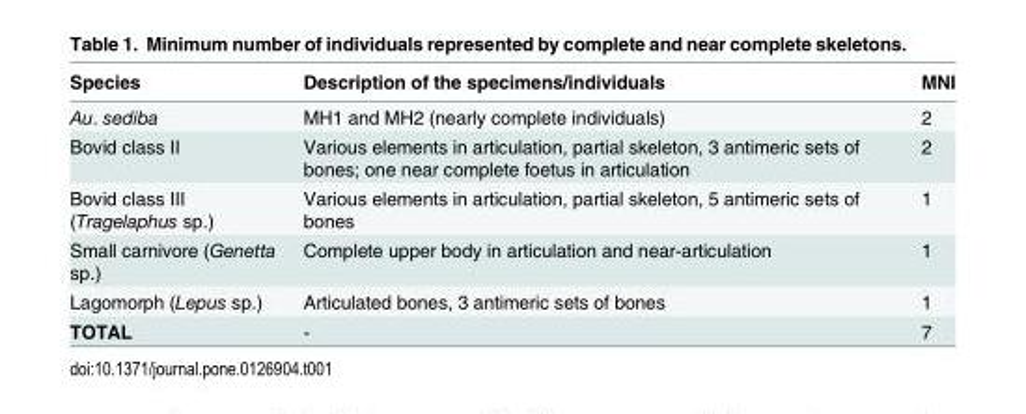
<table><thead><tr><td>Species</td><td>Description of the specimens/individuals</td><td>MNI</td></tr></thead><tbody><tr><td>Au. sediba</td><td>MH1 and MH2 (nearly complete individuals)</td><td>2</td></tr><tr><td>Bovid class II</td><td>Various elements in articulation, partial skeleton, 3 antimeric sets of bones; one near complete foetus in articulation</td><td>2</td></tr><tr><td>Bovid class III (Tragelaphus sp.)</td><td>Various elements in articulation, partial skeleton, 5 antimeric sets of bones</td><td>1</td></tr><tr><td>Small carnivore (Genetta sp.)</td><td>Complete upper body in articulation and near-articulation</td><td>1</td></tr><tr><td>Lagomorph (Lepus sp.)</td><td>Articulated bones, 3 antimeric sets of bones</td><td>1</td></tr><tr><td>TOTAL</td><td>-</td><td>7</td></tr></tbody></table>